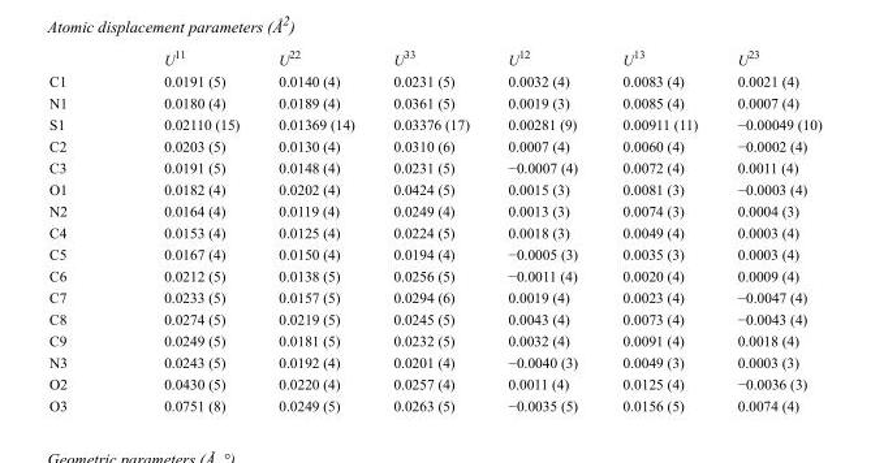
<table><thead><tr><td></td><td>U<sup>11</sup></td><td>U<sup>22</sup></td><td>U<sup>33</sup></td><td>U<sup>12</sup></td><td>U<sup>13</sup></td><td>U<sup>23</sup></td></tr></thead><tbody><tr><td>C1</td><td>0.0191 (5)</td><td>0.0140 (4)</td><td>0.0231 (5)</td><td>0.0032 (4)</td><td>0.0083 (4)</td><td>0.0021 (4)</td></tr><tr><td>N1</td><td>0.0180 (4)</td><td>0.0189 (4)</td><td>0.0361 (5)</td><td>0.0019 (3)</td><td>0.0085 (4)</td><td>0.0007 (4)</td></tr><tr><td>S1</td><td>0.02110 (15)</td><td>0.01369 (14)</td><td>0.03376 (17)</td><td>0.00281 (9)</td><td>0.00911 (11)</td><td>−0.00049 (10)</td></tr><tr><td>C2</td><td>0.0203 (5)</td><td>0.0130 (4)</td><td>0.0310 (6)</td><td>0.0007 (4)</td><td>0.0060 (4)</td><td>−0.0002 (4)</td></tr><tr><td>C3</td><td>0.0191 (5)</td><td>0.0148 (4)</td><td>0.0231 (5)</td><td>−0.0007 (4)</td><td>0.0072 (4)</td><td>0.0011 (4)</td></tr><tr><td>O1</td><td>0.0182 (4)</td><td>0.0202 (4)</td><td>0.0424 (5)</td><td>0.0015 (3)</td><td>0.0081 (3)</td><td>−0.0003 (4)</td></tr><tr><td>N2</td><td>0.0164 (4)</td><td>0.0119 (4)</td><td>0.0249 (4)</td><td>0.0013 (3)</td><td>0.0074 (3)</td><td>0.0004 (3)</td></tr><tr><td>C4</td><td>0.0153 (4)</td><td>0.0125 (4)</td><td>0.0224 (5)</td><td>0.0018 (3)</td><td>0.0049 (4)</td><td>0.0003 (4)</td></tr><tr><td>C5</td><td>0.0167 (4)</td><td>0.0150 (4)</td><td>0.0194 (4)</td><td>−0.0005 (3)</td><td>0.0035 (3)</td><td>0.0003 (4)</td></tr><tr><td>C6</td><td>0.0212 (5)</td><td>0.0138 (5)</td><td>0.0256 (5)</td><td>−0.0011 (4)</td><td>0.0020 (4)</td><td>0.0009 (4)</td></tr><tr><td>C7</td><td>0.0233 (5)</td><td>0.0157 (5)</td><td>0.0294 (6)</td><td>0.0019 (4)</td><td>0.0023 (4)</td><td>−0.0047 (4)</td></tr><tr><td>C8</td><td>0.0274 (5)</td><td>0.0219 (5)</td><td>0.0245 (5)</td><td>0.0043 (4)</td><td>0.0073 (4)</td><td>−0.0043 (4)</td></tr><tr><td>C9</td><td>0.0249 (5)</td><td>0.0181 (5)</td><td>0.0232 (5)</td><td>0.0032 (4)</td><td>0.0091 (4)</td><td>0.0018 (4)</td></tr><tr><td>N3</td><td>0.0243 (5)</td><td>0.0192 (4)</td><td>0.0201 (4)</td><td>−0.0040 (3)</td><td>0.0049 (3)</td><td>0.0003 (3)</td></tr><tr><td>O2</td><td>0.0430 (5)</td><td>0.0220 (4)</td><td>0.0257 (4)</td><td>0.0011 (4)</td><td>0.0125 (4)</td><td>−0.0036 (3)</td></tr><tr><td>O3</td><td>0.0751 (8)</td><td>0.0249 (5)</td><td>0.0263 (5)</td><td>−0.0035 (5)</td><td>0.0156 (5)</td><td>0.0074 (4)</td></tr></tbody></table>